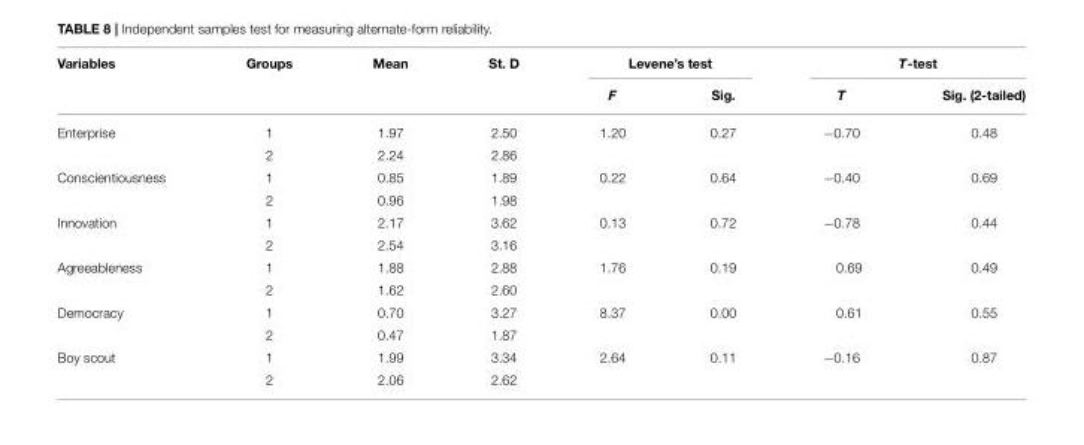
<table><thead><tr><td rowspan="2">Variables</td><td rowspan="2">Groups</td><td rowspan="2">Mean</td><td rowspan="2">St. D</td><td colspan="2">Levene’s test</td><td colspan="2">T-test</td></tr><tr><td>F</td><td>Sig.</td><td>T</td><td>Sig. (2-tailed)</td></tr></thead><tbody><tr><td rowspan="2">Enterprise</td><td>1</td><td>1.97</td><td>2.50</td><td>1.20</td><td>0.27</td><td>−0.70</td><td>0.48</td></tr><tr><td>2</td><td>2.24</td><td>2.86</td><td></td><td></td><td></td><td></td></tr><tr><td rowspan="2">Conscientiousness</td><td>1</td><td>0.85</td><td>1.89</td><td>0.22</td><td>0.64</td><td>−0.40</td><td>0.69</td></tr><tr><td>2</td><td>0.96</td><td>1.98</td><td></td><td></td><td></td><td></td></tr><tr><td rowspan="2">Innovation</td><td>1</td><td>2.17</td><td>3.62</td><td>0.13</td><td>0.72</td><td>−0.78</td><td>0.44</td></tr><tr><td>2</td><td>2.54</td><td>3.16</td><td></td><td></td><td></td><td></td></tr><tr><td rowspan="2">Agreeableness</td><td>1</td><td>1.88</td><td>2.88</td><td>1.76</td><td>0.19</td><td>0.69</td><td>0.49</td></tr><tr><td>2</td><td>1.62</td><td>2.60</td><td></td><td></td><td></td><td></td></tr><tr><td rowspan="2">Democracy</td><td>1</td><td>0.70</td><td>3.27</td><td>8.37</td><td>0.00</td><td>0.61</td><td>0.55</td></tr><tr><td>2</td><td>0.47</td><td>1.87</td><td></td><td></td><td></td><td></td></tr><tr><td rowspan="2">Boy scout</td><td>1</td><td>1.99</td><td>3.34</td><td>2.64</td><td>0.11</td><td>−0.16</td><td>0.87</td></tr><tr><td>2</td><td>2.06</td><td>2.62</td><td></td><td></td><td></td><td></td></tr></tbody></table>